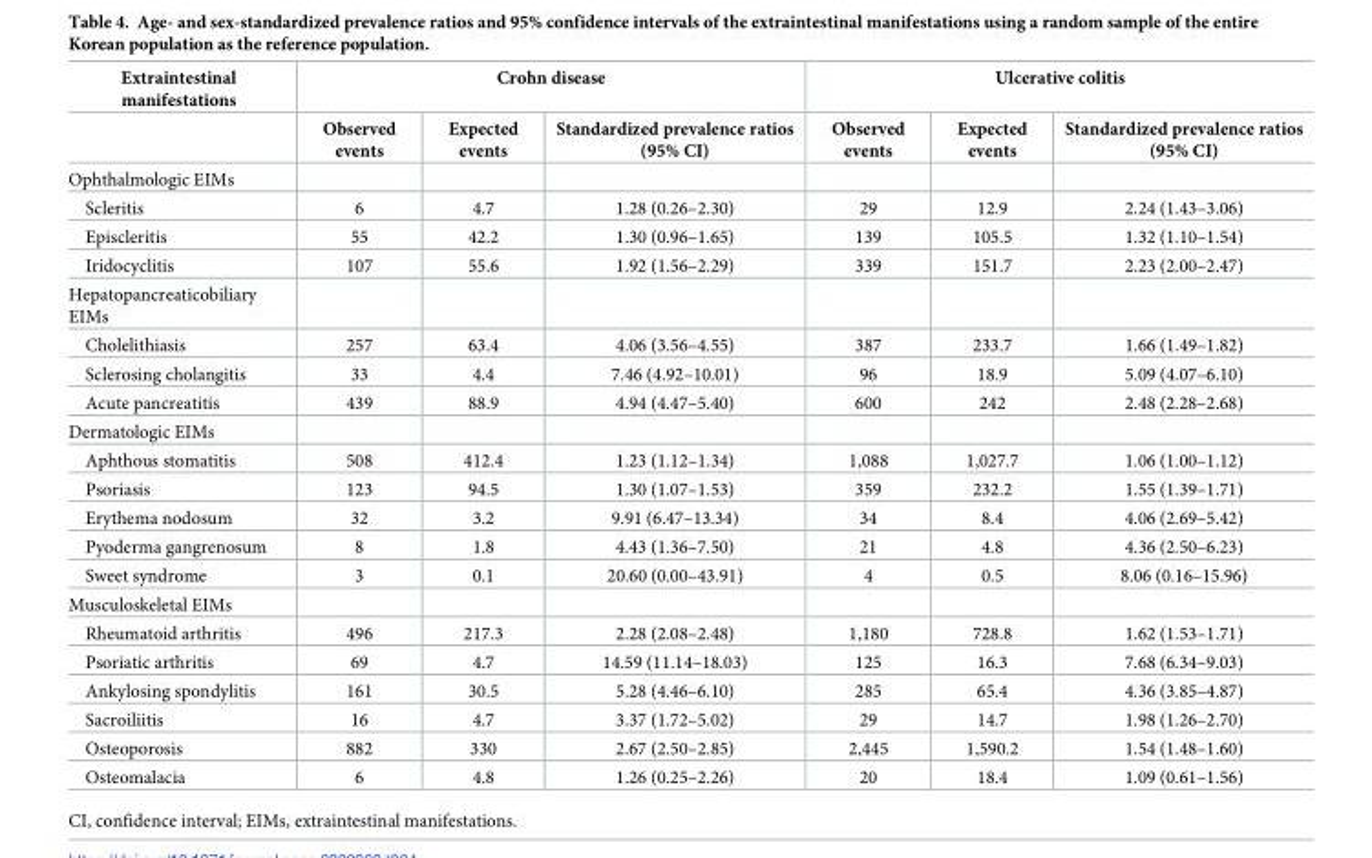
<table><thead><tr><td rowspan="2">Extraintestinal manifestations</td><td colspan="3">Crohn disease</td><td colspan="3">Ulcerative colitis</td></tr><tr><td>Observed events</td><td>Expected events</td><td>Standardized prevalence ratios (95% CI)</td><td>Observed events</td><td>Expected events</td><td>Standardized prevalence ratios (95% CI)</td></tr></thead><tbody><tr><td colspan="7">Ophthalmologic EIMs</td></tr><tr><td>Scleritis</td><td>6</td><td>4.7</td><td>1.28 (0.26–2.30)</td><td>29</td><td>12.9</td><td>2.24 (1.43–3.06)</td></tr><tr><td>Episcleritis</td><td>55</td><td>42.2</td><td>1.30 (0.96–1.65)</td><td>139</td><td>105.5</td><td>1.32 (1.10–1.54)</td></tr><tr><td>Iridocyclitis</td><td>107</td><td>55.6</td><td>1.92 (1.56–2.29)</td><td>339</td><td>151.7</td><td>2.23 (2.00–2.47)</td></tr><tr><td colspan="7">Hepatopancreaticobiliary EIMs</td></tr><tr><td>Cholelithiasis</td><td>257</td><td>63.4</td><td>4.06 (3.56–4.55)</td><td>387</td><td>233.7</td><td>1.66 (1.49–1.82)</td></tr><tr><td>Sclerosing cholangitis</td><td>33</td><td>4.4</td><td>7.46 (4.92–10.01)</td><td>96</td><td>18.9</td><td>5.09 (4.07–6.10)</td></tr><tr><td>Acute pancreatitis</td><td>439</td><td>88.9</td><td>4.94 (4.47–5.40)</td><td>600</td><td>242</td><td>2.48 (2.28–2.68)</td></tr><tr><td colspan="7">Dermatologic EIMs</td></tr><tr><td>Aphthous stomatitis</td><td>508</td><td>412.4</td><td>1.23 (1.12–1.34)</td><td>1,088</td><td>1,027.7</td><td>1.06 (1.00–1.12)</td></tr><tr><td>Psoriasis</td><td>123</td><td>94.5</td><td>1.30 (1.07–1.53)</td><td>359</td><td>232.2</td><td>1.55 (1.39–1.71)</td></tr><tr><td>Erythema nodosum</td><td>32</td><td>3.2</td><td>9.91 (6.47–13.34)</td><td>34</td><td>8.4</td><td>4.06 (2.69–5.42)</td></tr><tr><td>Pyoderma gangrenosum</td><td>8</td><td>1.8</td><td>4.43 (1.36–7.50)</td><td>21</td><td>4.8</td><td>4.36 (2.50–6.23)</td></tr><tr><td>Sweet syndrome</td><td>3</td><td>0.1</td><td>20.60 (0.00–43.91)</td><td>4</td><td>0.5</td><td>8.06 (0.16–15.96)</td></tr><tr><td colspan="7">Musculoskeletal EIMs</td></tr><tr><td>Rheumatoid arthritis</td><td>496</td><td>217.3</td><td>2.28 (2.08–2.48)</td><td>1,180</td><td>728.8</td><td>1.62 (1.53–1.71)</td></tr><tr><td>Psoriatic arthritis</td><td>69</td><td>4.7</td><td>14.59 (11.14–18.03)</td><td>125</td><td>16.3</td><td>7.68 (6.34–9.03)</td></tr><tr><td>Ankylosing spondylitis</td><td>161</td><td>30.5</td><td>5.28 (4.46–6.10)</td><td>285</td><td>65.4</td><td>4.36 (3.85–4.87)</td></tr><tr><td>Sacroiliitis</td><td>16</td><td>4.7</td><td>3.37 (1.72–5.02)</td><td>29</td><td>14.7</td><td>1.98 (1.26–2.70)</td></tr><tr><td>Osteoporosis</td><td>882</td><td>330</td><td>2.67 (2.50–2.85)</td><td>2,445</td><td>1,590.2</td><td>1.54 (1.48–1.60)</td></tr><tr><td>Osteomalacia</td><td>6</td><td>4.8</td><td>1.26 (0.25–2.26)</td><td>20</td><td>18.4</td><td>1.09 (0.61–1.56)</td></tr></tbody></table>